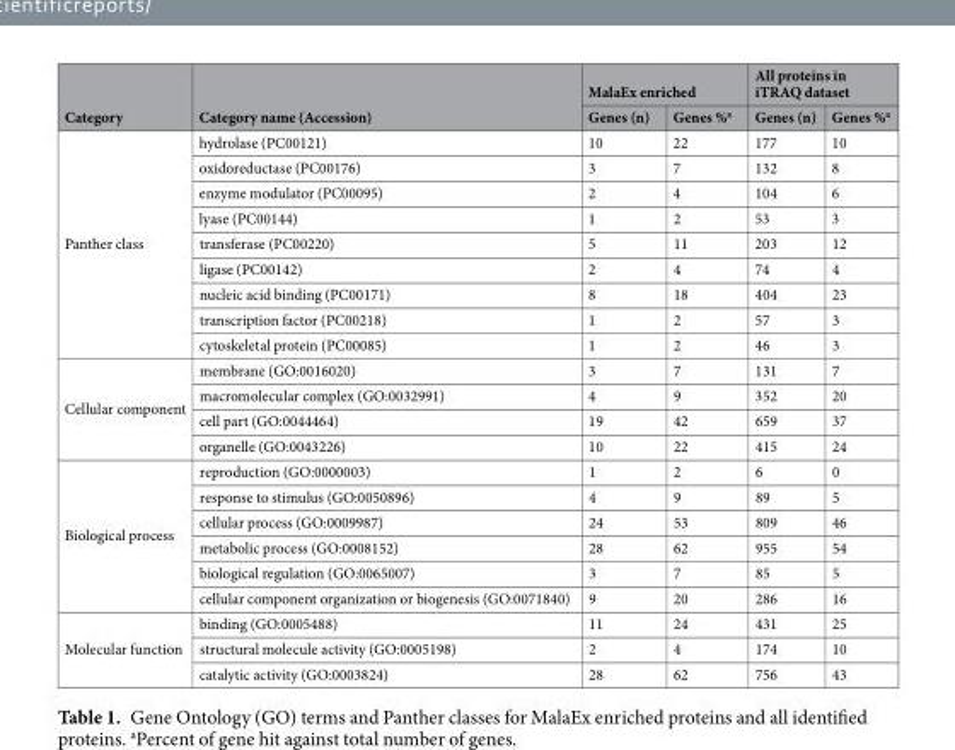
<table><thead><tr><td rowspan="2">Category</td><td rowspan="2">Category name (Accession)</td><td colspan="2">MalaEx enriched</td><td colspan="2">All proteins in iTRAQ dataset</td></tr><tr><td>Genes (n)</td><td>Genes %<sup>a</sup></td><td>Genes (n)</td><td>Genes %<sup>a</sup></td></tr></thead><tbody><tr><td rowspan="9">Panther class</td><td>hydrolase (PC00121)</td><td>10</td><td>22</td><td>177</td><td>10</td></tr><tr><td>oxidoreductase (PC00176)</td><td>3</td><td>7</td><td>132</td><td>8</td></tr><tr><td>enzyme modulator (PC00095)</td><td>2</td><td>4</td><td>104</td><td>6</td></tr><tr><td>lyase (PC00144)</td><td>1</td><td>2</td><td>53</td><td>3</td></tr><tr><td>transferase (PC00220)</td><td>5</td><td>11</td><td>203</td><td>12</td></tr><tr><td>ligase (PC00142)</td><td>2</td><td>4</td><td>74</td><td>4</td></tr><tr><td>nucleic acid binding (PC00171)</td><td>8</td><td>18</td><td>404</td><td>23</td></tr><tr><td>transcription factor (PC00218)</td><td>1</td><td>2</td><td>57</td><td>3</td></tr><tr><td>cytoskeletal protein (PC00085)</td><td>1</td><td>2</td><td>46</td><td>3</td></tr><tr><td rowspan="4">Cellular component</td><td>membrane (GO:0016020)</td><td>3</td><td>7</td><td>131</td><td>7</td></tr><tr><td>macromolecular complex (GO:0032991)</td><td>4</td><td>9</td><td>352</td><td>20</td></tr><tr><td>cell part (GO:0044464)</td><td>19</td><td>42</td><td>659</td><td>37</td></tr><tr><td>organelle (GO:0043226)</td><td>10</td><td>22</td><td>415</td><td>24</td></tr><tr><td rowspan="6">Biological process</td><td>reproduction (GO:0000003)</td><td>1</td><td>2</td><td>6</td><td>0</td></tr><tr><td>response to stimulus (GO:0050896)</td><td>4</td><td>9</td><td>89</td><td>5</td></tr><tr><td>cellular process (GO:0009987)</td><td>24</td><td>53</td><td>809</td><td>46</td></tr><tr><td>metabolic process (GO:0008152)</td><td>28</td><td>62</td><td>955</td><td>54</td></tr><tr><td>biological regulation (GO:0065007)</td><td>3</td><td>7</td><td>85</td><td>5</td></tr><tr><td>cellular component organization or biogenesis (GO:0071840)</td><td>9</td><td>20</td><td>286</td><td>16</td></tr><tr><td rowspan="3">Molecular function</td><td>binding (GO:0005488)</td><td>11</td><td>24</td><td>431</td><td>25</td></tr><tr><td>structural molecule activity (GO:0005198)</td><td>2</td><td>4</td><td>174</td><td>10</td></tr><tr><td>catalytic activity (GO:0003824)</td><td>28</td><td>62</td><td>756</td><td>43</td></tr></tbody></table>